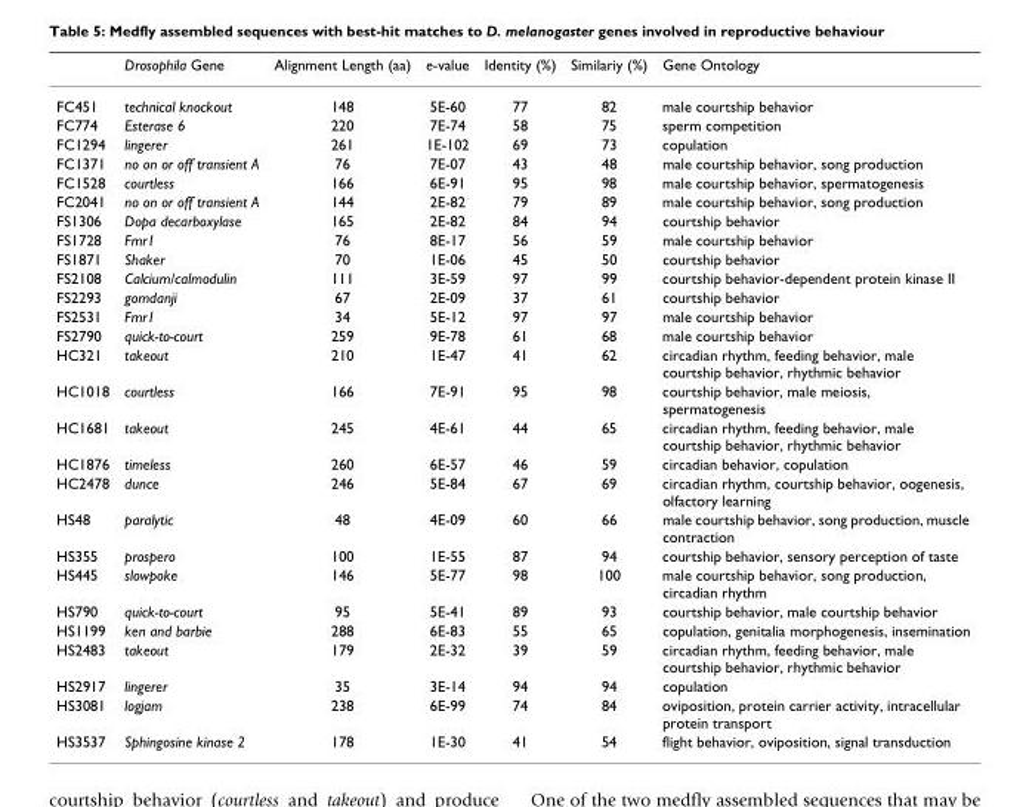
<table><thead><tr><td></td><td>Drosophila Gene</td><td>Alignment Length (aa)</td><td>e-value</td><td>Identity (%)</td><td>Similariy (%)</td><td>Gene Ontology</td></tr></thead><tbody><tr><td>FC451</td><td>technical knockout</td><td>148</td><td>5E-60</td><td>77</td><td>82</td><td>male courtship behavior</td></tr><tr><td>FC774</td><td>Esterase 6</td><td>220</td><td>7E-74</td><td>58</td><td>75</td><td>sperm competition</td></tr><tr><td>FC1294</td><td>lingerer</td><td>261</td><td>1E-102</td><td>69</td><td>73</td><td>copulation</td></tr><tr><td>FC1371</td><td>no on or off transient A</td><td>76</td><td>7E-07</td><td>43</td><td>48</td><td>male courtship behavior, song production</td></tr><tr><td>FC1528</td><td>courtless</td><td>166</td><td>6E-91</td><td>95</td><td>98</td><td>male courtship behavior, spermatogenesis</td></tr><tr><td>FC2041</td><td>no on or off transient A</td><td>144</td><td>2E-82</td><td>79</td><td>89</td><td>male courtship behavior, song production</td></tr><tr><td>FS1306</td><td>Dopa decarboxylase</td><td>165</td><td>2E-82</td><td>84</td><td>94</td><td>courtship behavior</td></tr><tr><td>FS1728</td><td>Fmr1</td><td>76</td><td>8E-17</td><td>56</td><td>59</td><td>male courtship behavior</td></tr><tr><td>FS1871</td><td>Shaker</td><td>70</td><td>1E-06</td><td>45</td><td>50</td><td>courtship behavior</td></tr><tr><td>FS2108</td><td>Calcium/calmodulin</td><td>111</td><td>3E-59</td><td>97</td><td>99</td><td>courtship behavior-dependent protein kinase II</td></tr><tr><td>FS2293</td><td>gomdanji</td><td>67</td><td>2E-09</td><td>37</td><td>61</td><td>courtship behavior</td></tr><tr><td>FS2531</td><td>Fmr1</td><td>34</td><td>5E-12</td><td>97</td><td>97</td><td>male courtship behavior</td></tr><tr><td>FS2790</td><td>quick-to-court</td><td>259</td><td>9E-78</td><td>61</td><td>68</td><td>male courtship behavior</td></tr><tr><td>HC321</td><td>takeout</td><td>210</td><td>1E-47</td><td>41</td><td>62</td><td>circadian rhythm, feeding behavior, male courtship behavior, rhythmic behavior</td></tr><tr><td>HC1018</td><td>courtless</td><td>166</td><td>7E-91</td><td>95</td><td>98</td><td>courtship behavior, male meiosis, spermatogenesis</td></tr><tr><td>HC1681</td><td>takeout</td><td>245</td><td>4E-61</td><td>44</td><td>65</td><td>circadian rhythm, feeding behavior, male courtship behavior, rhythmic behavior</td></tr><tr><td>HC1876</td><td>timeless</td><td>260</td><td>6E-57</td><td>46</td><td>59</td><td>circadian behavior, copulation</td></tr><tr><td>HC2478</td><td>dunce</td><td>246</td><td>5E-84</td><td>67</td><td>69</td><td>circadian rhythm, courtship behavior, oogenesis, olfactory learning</td></tr><tr><td>HS48</td><td>paralytic</td><td>48</td><td>4E-09</td><td>60</td><td>66</td><td>male courtship behavior, song production, muscle contraction</td></tr><tr><td>HS355</td><td>prospero</td><td>100</td><td>1E-55</td><td>87</td><td>94</td><td>courtship behavior, sensory perception of taste</td></tr><tr><td>HS445</td><td>slowpoke</td><td>146</td><td>5E-77</td><td>98</td><td>100</td><td>male courtship behavior, song production, circadian rhythm</td></tr><tr><td>HS790</td><td>quick-to-court</td><td>95</td><td>5E-41</td><td>89</td><td>93</td><td>courtship behavior, male courtship behavior</td></tr><tr><td>HS1199</td><td>ken and barbie</td><td>288</td><td>6E-83</td><td>55</td><td>65</td><td>copulation, genitalia morphogenesis, insemination</td></tr><tr><td>HS2483</td><td>takeout</td><td>179</td><td>2E-32</td><td>39</td><td>59</td><td>circadian rhythm, feeding behavior, male courtship behavior, rhythmic behavior</td></tr><tr><td>HS2917</td><td>lingerer</td><td>35</td><td>3E-14</td><td>94</td><td>94</td><td>copulation</td></tr><tr><td>HS3081</td><td>logjam</td><td>238</td><td>6E-99</td><td>74</td><td>84</td><td>oviposition, protein carrier activity, intracellular protein transport</td></tr><tr><td>HS3537</td><td>Sphingosine kinase 2</td><td>178</td><td>1E-30</td><td>41</td><td>54</td><td>flight behavior, oviposition, signal transduction</td></tr></tbody></table>